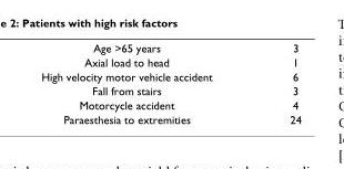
<table><tbody><tr><td>Age &gt;65 years</td><td>3</td></tr><tr><td>Axial load to head</td><td>1</td></tr><tr><td>High velocity motor vehicle accident</td><td>6</td></tr><tr><td>Fall from stairs</td><td>3</td></tr><tr><td>Motorcycle accident</td><td>4</td></tr><tr><td>Paraesthesia to extremities</td><td>24</td></tr></tbody></table>